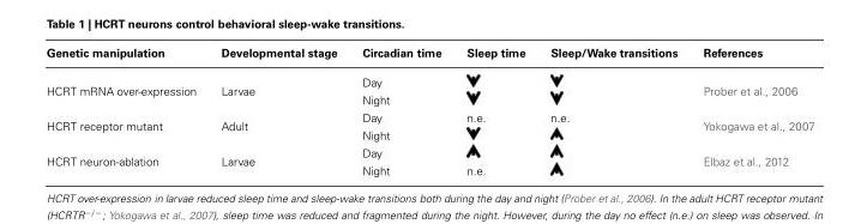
<table><thead><tr><td>Genetic manipulation</td><td>Developmental stage</td><td>Circadian time</td><td>Sleep time</td><td>Sleep/Wake transitions</td><td>References</td></tr></thead><tbody><tr><td rowspan="2">HCRT mRNA over-expression</td><td rowspan="2">Larvae</td><td>Day</td><td></td><td></td><td rowspan="2">Prober et al., 2006</td></tr><tr><td>Night</td><td></td><td></td></tr><tr><td rowspan="2">HCRT receptor mutant</td><td rowspan="2">Adult</td><td>Day</td><td>n.e.</td><td>n.e.</td><td rowspan="2">Yokogawa et al., 2007</td></tr><tr><td>Night</td><td></td><td></td></tr><tr><td rowspan="2">HCRT neuron-ablation</td><td rowspan="2">Larvae</td><td>Day</td><td></td><td></td><td rowspan="2">Elbaz et al., 2012</td></tr><tr><td>Night</td><td>n.e.</td><td></td></tr></tbody></table>